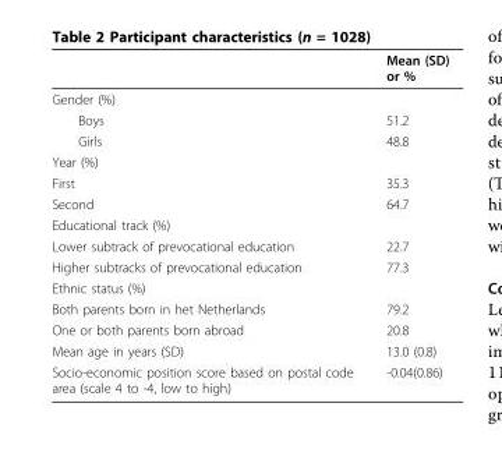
<table><thead><tr><td></td><td>Mean (SD) or %</td></tr></thead><tbody><tr><td colspan="2">Gender (%)</td></tr><tr><td>Boys</td><td>51.2</td></tr><tr><td>Girls</td><td>48.8</td></tr><tr><td colspan="2">Year (%)</td></tr><tr><td>First</td><td>35.3</td></tr><tr><td>Second</td><td>64.7</td></tr><tr><td colspan="2">Educational track (%)</td></tr><tr><td>Lower subtrack of prevocational education</td><td>22.7</td></tr><tr><td>Higher subtracks of prevocational education</td><td>77.3</td></tr><tr><td colspan="2">Ethnic status (%)</td></tr><tr><td>Both parents born in het Netherlands</td><td>79.2</td></tr><tr><td>One or both parents born abroad</td><td>20.8</td></tr><tr><td>Mean age in years (SD)</td><td>13.0 (0.8)</td></tr><tr><td>Socio-economic position score based on postal code area (scale 4 to -4, low to high)</td><td>-0.04(0.86)</td></tr></tbody></table>